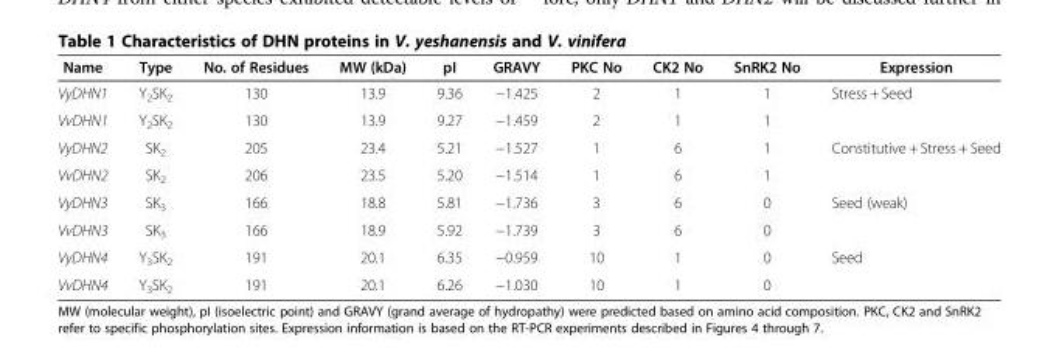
<table><thead><tr><td>Name</td><td>Type</td><td>No. of Residues</td><td>MW (kDa)</td><td>pI</td><td>GRAVY</td><td>PKC No</td><td>CK2 No</td><td>SnRK2 No</td><td>Expression</td></tr></thead><tbody><tr><td>VyDHN1</td><td>Y<sub>2</sub>SK<sub>2</sub></td><td>130</td><td>13.9</td><td>9.36</td><td>−1.425</td><td>2</td><td>1</td><td>1</td><td rowspan="2">Stress + Seed</td></tr><tr><td>VvDHN1</td><td>Y<sub>2</sub>SK<sub>2</sub></td><td>130</td><td>13.9</td><td>9.27</td><td>−1.459</td><td>2</td><td>1</td><td>1</td></tr><tr><td>VyDHN2</td><td>SK<sub>2</sub></td><td>205</td><td>23.4</td><td>5.21</td><td>−1.527</td><td>1</td><td>6</td><td>1</td><td rowspan="2">Constitutive + Stress + Seed</td></tr><tr><td>VvDHN2</td><td>SK<sub>2</sub></td><td>206</td><td>23.5</td><td>5.20</td><td>−1.514</td><td>1</td><td>6</td><td>1</td></tr><tr><td>VyDHN3</td><td>SK<sub>3</sub></td><td>166</td><td>18.8</td><td>5.81</td><td>−1.736</td><td>3</td><td>6</td><td>0</td><td rowspan="2">Seed (weak)</td></tr><tr><td>VvDHN3</td><td>SK<sub>3</sub></td><td>166</td><td>18.9</td><td>5.92</td><td>−1.739</td><td>3</td><td>6</td><td>0</td></tr><tr><td>VyDHN4</td><td>Y<sub>3</sub>SK<sub>2</sub></td><td>191</td><td>20.1</td><td>6.35</td><td>−0.959</td><td>10</td><td>1</td><td>0</td><td>Seed</td></tr><tr><td>VvDHN4</td><td>Y<sub>3</sub>SK<sub>2</sub></td><td>191</td><td>20.1</td><td>6.26</td><td>−1.030</td><td>10</td><td>1</td><td>0</td><td></td></tr></tbody></table>